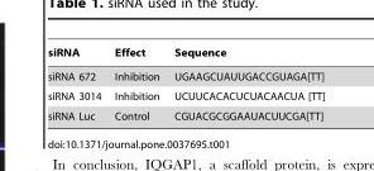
<table><thead><tr><td>siRNA</td><td>Effect</td><td>Sequence</td></tr></thead><tbody><tr><td>siRNA 672</td><td>Inhibition</td><td>UGAAGCUAUUGACCGUAGA[TT]</td></tr><tr><td>siRNA 3014</td><td>Inhibition</td><td>UCUUCACACUCUACAACUA [TT]</td></tr><tr><td>siRNA Luc</td><td>Control</td><td>CGUACGCGGAAUACUUCGA[TT]</td></tr></tbody></table>